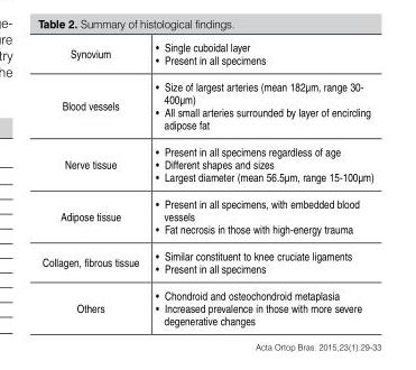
<table><tbody><tr><td>Synovium</td><td>• Single cuboidal layer • Present in all specimens</td></tr><tr><td>Blood vessels</td><td>• Size of largest arteries (mean 182µm, range 30- 400µm) • All small arteries surrounded by layer of encircling adipose fat</td></tr><tr><td>Nerve tissue</td><td>• Present in all specimens regardless of age • Different shapes and sizes • Largest diameter (mean 56.5µm, range 15-100µm)</td></tr><tr><td>Adipose tissue</td><td>• Present in all specimens, with embedded blood vessels • Fat necrosis in those with high-energy trauma</td></tr><tr><td>Collagen, fibrous tissue</td><td>• Similar constituent to knee cruciate ligaments • Present in all specimens</td></tr><tr><td>Others</td><td>• Chondroid and osteochondroid metaplasia • Increased prevalence in those with more severe degenerative changes</td></tr></tbody></table>